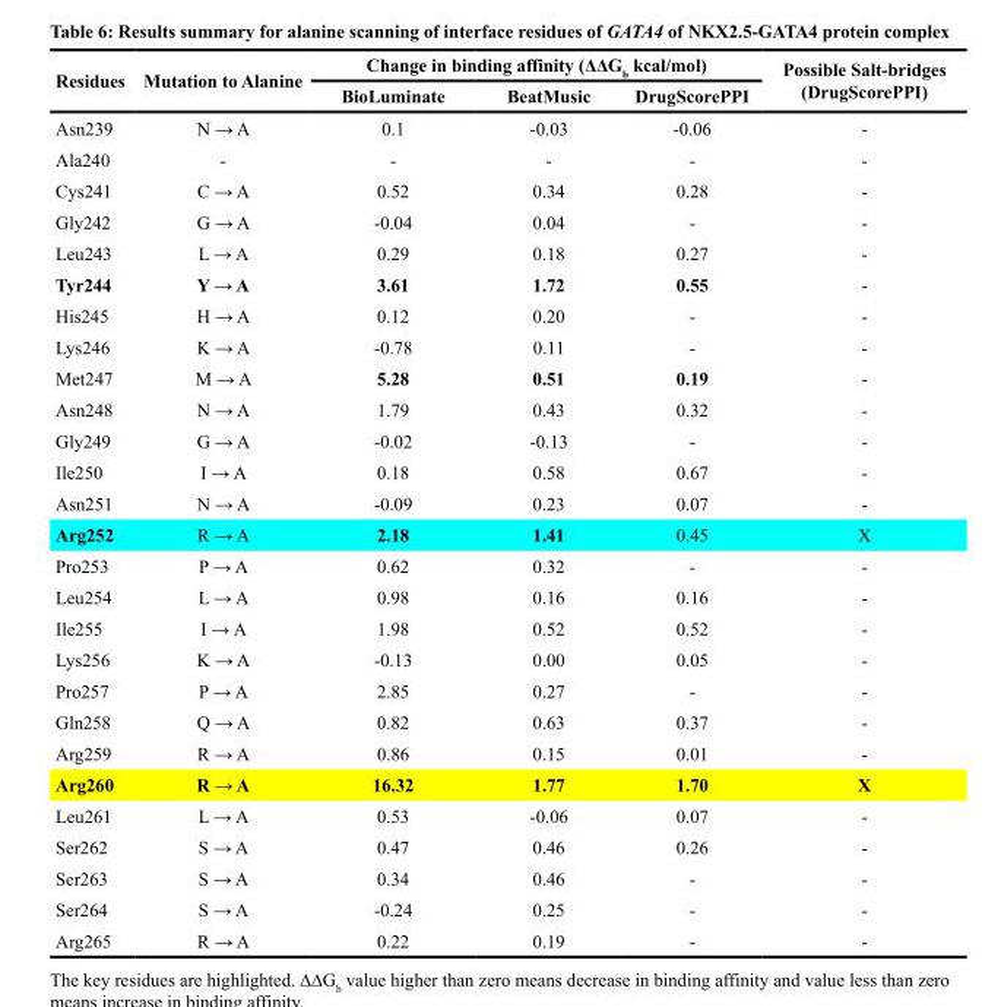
<table><thead><tr><td rowspan="2">Residues</td><td rowspan="2">Mutation to Alanine</td><td colspan="3">Change in binding affinity (ΔΔG<sub>b</sub> kcal/mol)</td><td rowspan="2">Possible Salt-bridges (DrugScorePPI)</td></tr><tr><td>BioLuminate</td><td>BeatMusic</td><td>DrugScorePPI</td></tr></thead><tbody><tr><td>Asn239</td><td>N → A</td><td>0.1</td><td>-0.03</td><td>-0.06</td><td>-</td></tr><tr><td>Ala240</td><td>-</td><td>-</td><td>-</td><td>-</td><td>-</td></tr><tr><td>Cys241</td><td>C → A</td><td>0.52</td><td>0.34</td><td>0.28</td><td>-</td></tr><tr><td>Gly242</td><td>G → A</td><td>-0.04</td><td>0.04</td><td>-</td><td>-</td></tr><tr><td>Leu243</td><td>L → A</td><td>0.29</td><td>0.18</td><td>0.27</td><td>-</td></tr><tr><td>Tyr244</td><td>Y → A</td><td>3.61</td><td>1.72</td><td>0.55</td><td>-</td></tr><tr><td>His245</td><td>H → A</td><td>0.12</td><td>0.20</td><td>-</td><td>-</td></tr><tr><td>Lys246</td><td>K → A</td><td>-0.78</td><td>0.11</td><td>-</td><td>-</td></tr><tr><td>Met247</td><td>M → A</td><td>5.28</td><td>0.51</td><td>0.19</td><td>-</td></tr><tr><td>Asn248</td><td>N → A</td><td>1.79</td><td>0.43</td><td>0.32</td><td>-</td></tr><tr><td>Gly249</td><td>G → A</td><td>-0.02</td><td>-0.13</td><td>-</td><td>-</td></tr><tr><td>Ile250</td><td>I → A</td><td>0.18</td><td>0.58</td><td>0.67</td><td>-</td></tr><tr><td>Asn251</td><td>N → A</td><td>-0.09</td><td>0.23</td><td>0.07</td><td>-</td></tr><tr><td>Arg252</td><td>R → A</td><td>2.18</td><td>1.41</td><td>0.45</td><td>X</td></tr><tr><td>Pro253</td><td>P → A</td><td>0.62</td><td>0.32</td><td>-</td><td>-</td></tr><tr><td>Leu254</td><td>L → A</td><td>0.98</td><td>0.16</td><td>0.16</td><td>-</td></tr><tr><td>Ile255</td><td>I → A</td><td>1.98</td><td>0.52</td><td>0.52</td><td>-</td></tr><tr><td>Lys256</td><td>K → A</td><td>-0.13</td><td>0.00</td><td>0.05</td><td>-</td></tr><tr><td>Pro257</td><td>P → A</td><td>2.85</td><td>0.27</td><td>-</td><td>-</td></tr><tr><td>Gln258</td><td>Q → A</td><td>0.82</td><td>0.63</td><td>0.37</td><td>-</td></tr><tr><td>Arg259</td><td>R → A</td><td>0.86</td><td>0.15</td><td>0.01</td><td>-</td></tr><tr><td>Arg260</td><td>R → A</td><td>16.32</td><td>1.77</td><td>1.70</td><td>X</td></tr><tr><td>Leu261</td><td>L → A</td><td>0.53</td><td>-0.06</td><td>0.07</td><td>-</td></tr><tr><td>Ser262</td><td>S → A</td><td>0.47</td><td>0.46</td><td>0.26</td><td>-</td></tr><tr><td>Ser263</td><td>S → A</td><td>0.34</td><td>0.46</td><td>-</td><td>-</td></tr><tr><td>Ser264</td><td>S → A</td><td>-0.24</td><td>0.25</td><td>-</td><td>-</td></tr><tr><td>Arg265</td><td>R → A</td><td>0.22</td><td>0.19</td><td>-</td><td>-</td></tr></tbody></table>